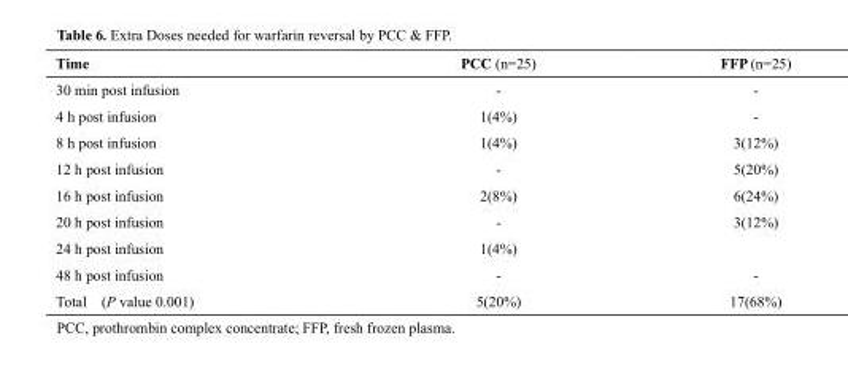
<table><thead><tr><td>Time</td><td>PCC (n=25)</td><td>FFP (n=25)</td></tr></thead><tbody><tr><td>30 min post infusion</td><td>-</td><td>-</td></tr><tr><td>4 h post infusion</td><td>1(4%)</td><td>-</td></tr><tr><td>8 h post infusion</td><td>1(4%)</td><td>3(12%)</td></tr><tr><td>12 h post infusion</td><td>-</td><td>5(20%)</td></tr><tr><td>16 h post infusion</td><td>2(8%)</td><td>6(24%)</td></tr><tr><td>20 h post infusion</td><td>-</td><td>3(12%)</td></tr><tr><td>24 h post infusion</td><td>1(4%)</td><td></td></tr><tr><td>48 h post infusion</td><td>-</td><td>-</td></tr><tr><td>Total (P value 0.001)</td><td>5(20%)</td><td>17(68%)</td></tr></tbody></table>